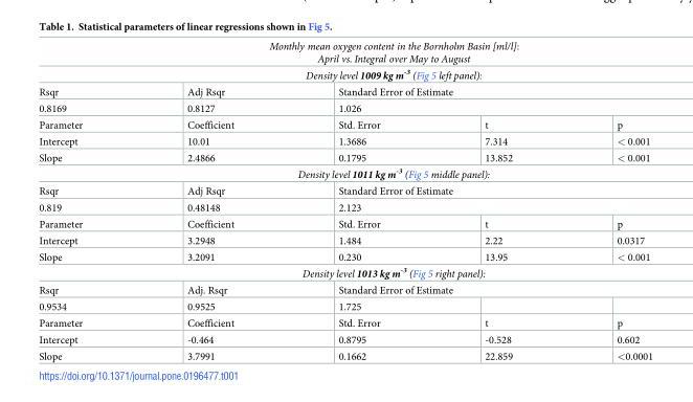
<table><tbody><tr><td colspan="5">Monthly mean oxygen content in the Bornholm Basin [ml/l]: April vs. Integral over May to August</td></tr><tr><td colspan="5">Density level 1009 kg m<sup>-3</sup> (Fig 5 left panel):</td></tr><tr><td>Rsqr</td><td>Adj Rsqr</td><td colspan="3">Standard Error of Estimate</td></tr><tr><td>0.8169</td><td>0.8127</td><td colspan="3">1.026</td></tr><tr><td>Parameter</td><td>Coefficient</td><td>Std. Error</td><td>t</td><td>p</td></tr><tr><td>Intercept</td><td>10.01</td><td>1.3686</td><td>7.314</td><td>&lt; 0.001</td></tr><tr><td>Slope</td><td>2.4866</td><td>0.1795</td><td>13.852</td><td>&lt; 0.001</td></tr><tr><td colspan="5">Density level 1011 kg m<sup>-3</sup> (Fig 5 middle panel):</td></tr><tr><td>Rsqr</td><td>Adj Rsqr</td><td colspan="3">Standard Error of Estimate</td></tr><tr><td>0.819</td><td>0.48148</td><td colspan="3">2.123</td></tr><tr><td>Parameter</td><td>Coefficient</td><td>Std. Error</td><td>t</td><td>p</td></tr><tr><td>Intercept</td><td>3.2948</td><td>1.484</td><td>2.22</td><td>0.0317</td></tr><tr><td>Slope</td><td>3.2091</td><td>0.230</td><td>13.95</td><td>&lt; 0.001</td></tr><tr><td colspan="5">Density level 1013 kg m<sup>-3</sup> (Fig 5 right panel):</td></tr><tr><td>Rsqr</td><td>Adj. Rsqr</td><td colspan="3">Standard Error of Estimate</td></tr><tr><td>0.9534</td><td>0.9525</td><td>1.725</td><td></td><td></td></tr><tr><td>Parameter</td><td>Coefficient</td><td>Std. Error</td><td>t</td><td>p</td></tr><tr><td>Intercept</td><td>-0.464</td><td>0.8795</td><td>-0.528</td><td>0.602</td></tr><tr><td>Slope</td><td>3.7991</td><td>0.1662</td><td>22.859</td><td>&lt;0.0001</td></tr></tbody></table>